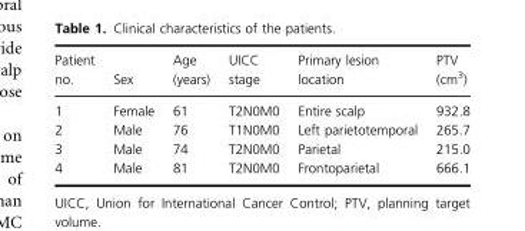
<table><thead><tr><td>Patient no.</td><td>Sex</td><td>Age (years)</td><td>UICC stage</td><td>Primary lesion location</td><td>PTV (cm<sup>3</sup>)</td></tr></thead><tbody><tr><td>1</td><td>Female</td><td>61</td><td>T2N0M0</td><td>Entire scalp</td><td>932.8</td></tr><tr><td>2</td><td>Male</td><td>76</td><td>T1N0M0</td><td>Left parietotemporal</td><td>265.7</td></tr><tr><td>3</td><td>Male</td><td>74</td><td>T2N0M0</td><td>Parietal</td><td>215.0</td></tr><tr><td>4</td><td>Male</td><td>81</td><td>T2N0M0</td><td>Frontoparietal</td><td>666.1</td></tr></tbody></table>